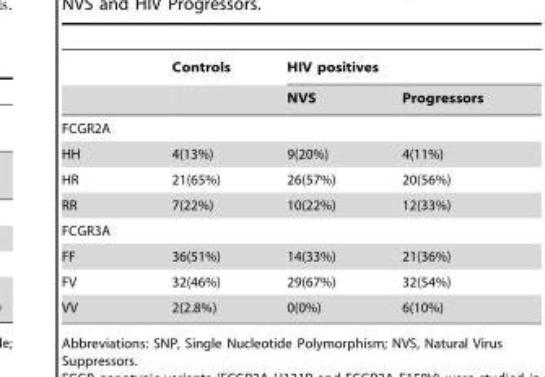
<table><thead><tr><td rowspan="2"></td><td rowspan="2">Controls</td><td colspan="2">HIV positives</td></tr><tr><td>NVS</td><td>Progressors</td></tr></thead><tbody><tr><td colspan="4">FCGR2A</td></tr><tr><td>HH</td><td>4(13%)</td><td>9(20%)</td><td>4(11%)</td></tr><tr><td>HR</td><td>21(65%)</td><td>26(57%)</td><td>20(56%)</td></tr><tr><td>RR</td><td>7(22%)</td><td>10(22%)</td><td>12(33%)</td></tr><tr><td colspan="4">FCGR3A</td></tr><tr><td>FF</td><td>36(51%)</td><td>14(33%)</td><td>21(36%)</td></tr><tr><td>FV</td><td>32(46%)</td><td>29(67%)</td><td>32(54%)</td></tr><tr><td>VV</td><td>2(2.8%)</td><td>0(0%)</td><td>6(10%)</td></tr></tbody></table>